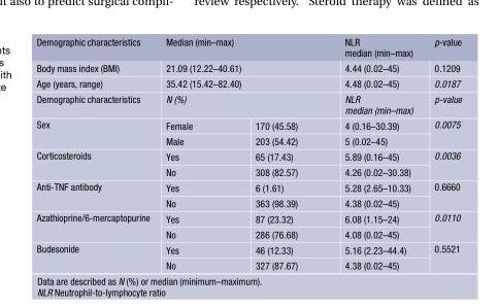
<table><thead><tr><td>Demographic characteristics</td><td colspan="2">Median (min–max)</td><td>NLR median (min–max)</td><td>p-value</td></tr></thead><tbody><tr><td>Body mass index (BMI)</td><td colspan="2">21.09 (12.22–40.61)</td><td>4.44 (0.02–45)</td><td>0.1209</td></tr><tr><td>Age (years, range)</td><td colspan="2">35.42 (15.42–82.40)</td><td>4.48 (0.02–45)</td><td>0.0187</td></tr><tr><td>Demographic characteristics</td><td colspan="2">N (%)</td><td>NLR median (min–max)</td><td>p-value</td></tr><tr><td rowspan="2">Sex</td><td>Female</td><td>170 (45.58)</td><td>4 (0.16–30.39)</td><td rowspan="2">0.0075</td></tr><tr><td>Male</td><td>203 (54.42)</td><td>5 (0.02–45)</td></tr><tr><td rowspan="2">Corticosteroids</td><td>Yes</td><td>65 (17.43)</td><td>5.89 (0.16–45)</td><td rowspan="2">0.0036</td></tr><tr><td>No</td><td>308 (82.57)</td><td>4.26 (0.02–30.38)</td></tr><tr><td rowspan="2">Anti-TNF antibody</td><td>Yes</td><td>6 (1.61)</td><td>5.28 (2.65–10.33)</td><td rowspan="2">0.6660</td></tr><tr><td>No</td><td>363 (98.39)</td><td>4.38 (0.02–45)</td></tr><tr><td rowspan="2">Azathioprine/6-mercaptopurine</td><td>Yes</td><td>87 (23.32)</td><td>6.08 (1.15–24)</td><td rowspan="2">0.0110</td></tr><tr><td>No</td><td>286 (76.68)</td><td>4.08 (0.02–45)</td></tr><tr><td rowspan="2">Budesonide</td><td>Yes</td><td>46 (12.33)</td><td>5.16 (2.23–44.4)</td><td rowspan="2">0.5521</td></tr><tr><td>No</td><td>327 (87.67)</td><td>4.38 (0.02–45)</td></tr></tbody></table>